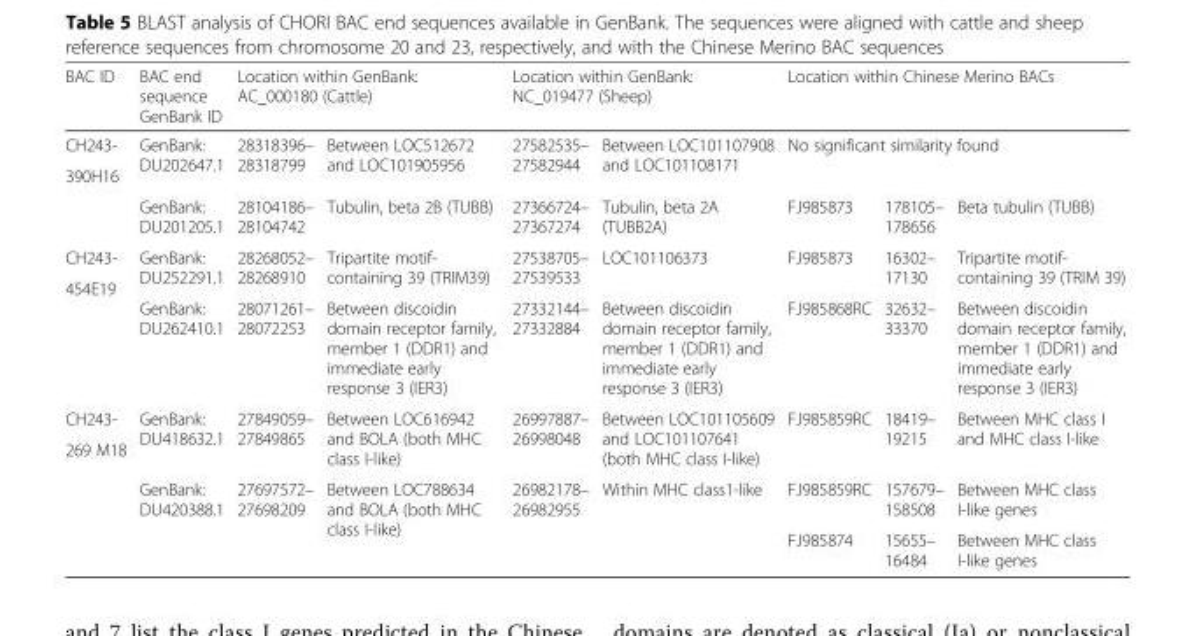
<table><thead><tr><td rowspan="4">BAC ID CH243- 390H16</td><td rowspan="4">BAC end sequence GenBank ID GenBank: DU202647.1 GenBank: DU201205.1</td><td colspan="2">Location within GenBank: AC_000180 (Cattle)</td><td colspan="2">Location within GenBank: NC_019477 (Sheep)</td><td rowspan="3" colspan="3">Location within Chinese Merino BACs No significant similarity found</td></tr><tr><td rowspan="3">28318396– 28318799 28104186– 28104742</td><td rowspan="3">Between LOC512672 and LOC101905956 Tubulin, beta 2B (TUBB)</td><td rowspan="3">27582535– 27582944 27366724– 27367274</td><td rowspan="3">Between LOC101107908 and LOC101108171 Tubulin, beta 2A (TUBB2A)</td></tr><tr></tr><tr><td>FJ985873</td><td>178105– 178656</td><td>Beta tubulin (TUBB)</td></tr></thead><tbody><tr><td>CH243-</td><td rowspan="2">GenBank: DU252291.1</td><td rowspan="2">28268052– 28268910</td><td rowspan="2">Tripartite motif- containing 39 (TRIM39)</td><td rowspan="2">27538705– 27539533</td><td rowspan="2">LOC101106373</td><td rowspan="2">FJ985873</td><td rowspan="2">16302– 17130</td><td rowspan="2">Tripartite motif- containing 39 (TRIM 39)</td></tr><tr><td rowspan="2">454E19</td></tr><tr><td>GenBank: DU262410.1</td><td>28071261– 28072253</td><td>Between discoidin domain receptor family, member 1 (DDR1) and immediate early response 3 (IER3)</td><td>27332144– 27332884</td><td>Between discoidin domain receptor family, member 1 (DDR1) and immediate early response 3 (IER3)</td><td>FJ985868RC</td><td>32632– 33370</td><td>Between discoidin domain receptor family, member 1 (DDR1) and immediate early response 3 (IER3)</td></tr><tr><td>CH243-</td><td rowspan="2">GenBank: DU418632.1</td><td rowspan="2">27849059– 27849865</td><td rowspan="2">Between LOC616942 and BOLA (both MHC class I-like)</td><td rowspan="2">26997887– 26998048</td><td rowspan="2">Between LOC101105609 and LOC101107641 (both MHC class I-like)</td><td rowspan="2">FJ985859RC</td><td rowspan="2">18419– 19215</td><td rowspan="2">Between MHC class I and MHC class I-like</td></tr><tr><td rowspan="3">269 M18</td></tr><tr><td rowspan="2">GenBank: DU420388.1</td><td rowspan="2">27697572– 27698209</td><td rowspan="2">Between LOC788634 and BOLA (both MHC class I-like)</td><td rowspan="2">26982178– 26982955</td><td rowspan="2">Within MHC class1-like</td><td>FJ985859RC</td><td>157679– 158508</td><td>Between MHC class I-like genes</td></tr><tr><td>FJ985874</td><td>15655– 16484</td><td>Between MHC class I-like genes</td></tr></tbody></table>